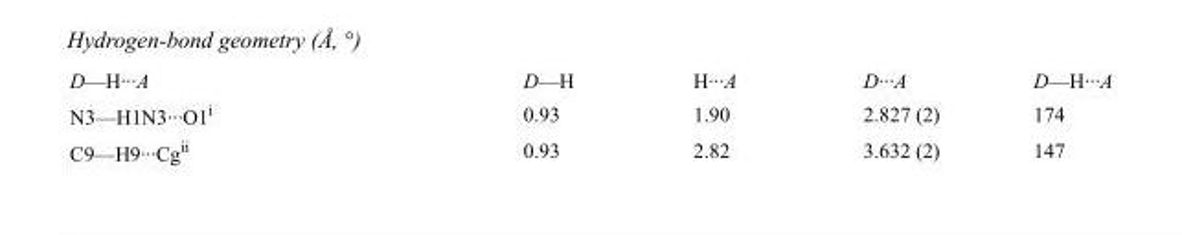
<table><tbody><tr><td>D—H···A</td><td>D—H</td><td>H···A</td><td>D···A</td><td>D—H···A</td></tr><tr><td>N3—H1N3···O1<sup>i</sup></td><td>0.93</td><td>1.90</td><td>2.827 (2)</td><td>174</td></tr><tr><td>C9—H9···Cg<sup>ii</sup></td><td>0.93</td><td>2.82</td><td>3.632 (2)</td><td>147</td></tr></tbody></table>